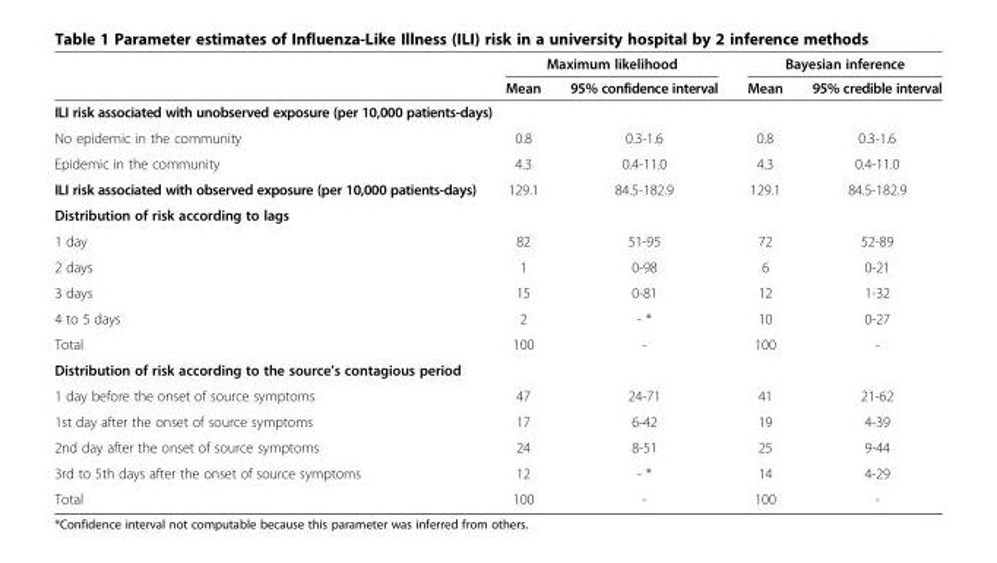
<table><thead><tr><td rowspan="2"></td><td colspan="2">Maximum likelihood</td><td colspan="2">Bayesian inference</td></tr><tr><td>Mean</td><td>95% confidence interval</td><td>Mean</td><td>95% credible interval</td></tr></thead><tbody><tr><td colspan="5">ILI risk associated with unobserved exposure (per 10,000 patients-days)</td></tr><tr><td>No epidemic in the community</td><td>0.8</td><td>0.3-1.6</td><td>0.8</td><td>0.3-1.6</td></tr><tr><td>Epidemic in the community</td><td>4.3</td><td>0.4-11.0</td><td>4.3</td><td>0.4-11.0</td></tr><tr><td>ILI risk associated with observed exposure (per 10,000 patients-days)</td><td>129.1</td><td>84.5-182.9</td><td>129.1</td><td>84.5-182.9</td></tr><tr><td colspan="5">Distribution of risk according to lags</td></tr><tr><td>1 day</td><td>82</td><td>51-95</td><td>72</td><td>52-89</td></tr><tr><td>2 days</td><td>1</td><td>0-98</td><td>6</td><td>0-21</td></tr><tr><td>3 days</td><td>15</td><td>0-81</td><td>12</td><td>1-32</td></tr><tr><td>4 to 5 days</td><td>2</td><td>- *</td><td>10</td><td>0-27</td></tr><tr><td>Total</td><td>100</td><td>-</td><td>100</td><td>-</td></tr><tr><td colspan="5">Distribution of risk according to the source’s contagious period</td></tr><tr><td>1 day before the onset of source symptoms</td><td>47</td><td>24-71</td><td>41</td><td>21-62</td></tr><tr><td>1st day after the onset of source symptoms</td><td>17</td><td>6-42</td><td>19</td><td>4-39</td></tr><tr><td>2nd day after the onset of source symptoms</td><td>24</td><td>8-51</td><td>25</td><td>9-44</td></tr><tr><td>3rd to 5th days after the onset of source symptoms</td><td>12</td><td>- *</td><td>14</td><td>4-29</td></tr><tr><td>Total</td><td>100</td><td>-</td><td>100</td><td>-</td></tr></tbody></table>